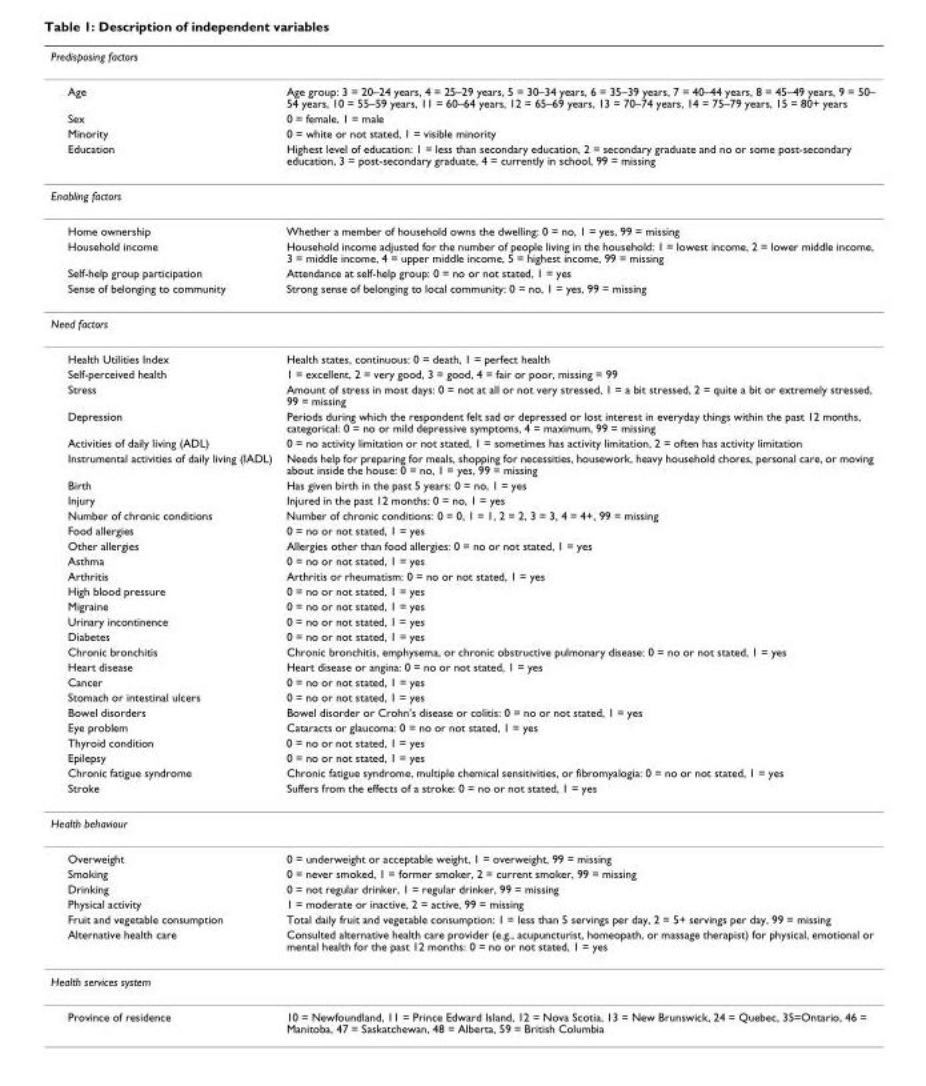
<table><thead><tr><td colspan="2">Predisposing factors</td></tr><tr><td>Age</td><td>Age group: 3 = 20–24 years, 4 = 25–29 years, 5 = 30–34 years, 6 = 35–39 years, 7 = 40–44 years, 8 = 45–49 years, 9 = 50– 54 years, 10 = 55–59 years, 11 = 60–64 years, 12 = 65–69 years, 13 = 70–74 years, 14 = 75–79 years, 15 = 80+ years</td></tr></thead><tbody><tr><td>Sex</td><td>0 = female, 1 = male</td></tr><tr><td>Minority</td><td>0 = white or not stated, 1 = visible minority</td></tr><tr><td>Education</td><td>Highest level of education: 1 = less than secondary education, 2 = secondary graduate and no or some post-secondary education, 3 = post-secondary graduate, 4 = currently in school, 99 = missing</td></tr><tr><td colspan="2">Enabling factors</td></tr><tr><td>Home ownership</td><td>Whether a member of household owns the dwelling: 0 = no, 1 = yes, 99 = missing</td></tr><tr><td>Household income</td><td>Household income adjusted for the number of people living in the household: 1 = lowest income, 2 = lower middle income, 3 = middle income, 4 = upper middle income, 5 = highest income, 99 = missing</td></tr><tr><td>Self-help group participation</td><td>Attendance at self-help group: 0 = no or not stated, 1 = yes</td></tr><tr><td>Sense of belonging to community</td><td>Strong sense of belonging to local community: 0 = no, 1 = yes, 99 = missing</td></tr><tr><td colspan="2">Need factors</td></tr><tr><td>Health Utilities Index</td><td>Health states, continuous: 0 = death, 1 = perfect health</td></tr><tr><td>Self-perceived health</td><td>1 = excellent, 2 = very good, 3 = good, 4 = fair or poor, missing = 99</td></tr><tr><td>Stress</td><td>Amount of stress in most days: 0 = not at all or not very stressed, 1 = a bit stressed, 2 = quite a bit or extremely stressed, 99 = missing</td></tr><tr><td>Depression</td><td>Periods during which the respondent felt sad or depressed or lost interest in everyday things within the past 12 months, categorical: 0 = no or mild depressive symptoms, 4 = maximum, 99 = missing</td></tr><tr><td>Activities of daily living (ADL)</td><td>0 = no activity limitation or not stated, 1 = sometimes has activity limitation, 2 = often has activity limitation</td></tr><tr><td>Instrumental activities of daily living (IADL)</td><td>Needs help for preparing for meals, shopping for necessities, housework, heavy household chores, personal care, or moving about inside the house: 0 = no, 1 = yes, 99 = missing</td></tr><tr><td>Birth</td><td>Has given birth in the past 5 years: 0 = no, 1 = yes</td></tr><tr><td>Injury</td><td>Injured in the past 12 months: 0 = no, 1 = yes</td></tr><tr><td>Number of chronic conditions</td><td>Number of chronic conditions: 0 = 0, 1 = 1, 2 = 2, 3 = 3, 4 = 4+, 99 = missing</td></tr><tr><td>Food allergies</td><td>0 = no or not stated, 1 = yes</td></tr><tr><td>Other allergies</td><td>Allergies other than food allergies: 0 = no or not stated, 1 = yes</td></tr><tr><td>Asthma</td><td>0 = no or not stated, 1 = yes</td></tr><tr><td>Arthritis</td><td>Arthritis or rheumatism: 0 = no or not stated, 1 = yes</td></tr><tr><td>High blood pressure</td><td>0 = no or not stated, 1 = yes</td></tr><tr><td>Migraine</td><td>0 = no or not stated, 1 = yes</td></tr><tr><td>Urinary incontinence</td><td>0 = no or not stated, 1 = yes</td></tr><tr><td>Diabetes</td><td>0 = no or not stated, 1 = yes</td></tr><tr><td>Chronic bronchitis</td><td>Chronic bronchitis, emphysema, or chronic obstructive pulmonary disease: 0 = no or not stated, 1 = yes</td></tr><tr><td>Heart disease</td><td>Heart disease or angina: 0 = no or not stated, 1 = yes</td></tr><tr><td>Cancer</td><td>0 = no or not stated, 1 = yes</td></tr><tr><td>Stomach or intestinal ulcers</td><td>0 = no or not stated, 1 = yes</td></tr><tr><td>Bowel disorders</td><td>Bowel disorder or Crohn&#x27;s disease or colitis: 0 = no or not stated, 1 = yes</td></tr><tr><td>Eye problem</td><td>Cataracts or glaucoma: 0 = no or not stated, 1 = yes</td></tr><tr><td>Thyroid condition</td><td>0 = no or not stated, 1 = yes</td></tr><tr><td>Epilepsy</td><td>0 = no or not stated, 1 = yes</td></tr><tr><td>Chronic fatigue syndrome</td><td>Chronic fatigue syndrome, multiple chemical sensitivities, or fibromyalogia: 0 = no or not stated, 1 = yes</td></tr><tr><td>Stroke</td><td>Suffers from the effects of a stroke: 0 = no or not stated, 1 = yes</td></tr><tr><td colspan="2">Health behaviour</td></tr><tr><td>Overweight</td><td>0 = underweight or acceptable weight, 1 = overweight, 99 = missing</td></tr><tr><td>Smoking</td><td>0 = never smoked, 1 = former smoker, 2 = current smoker, 99 = missing</td></tr><tr><td>Drinking</td><td>0 = not regular drinker, 1 = regular drinker, 99 = missing</td></tr><tr><td>Physical activity</td><td>1 = moderate or inactive, 2 = active, 99 = missing</td></tr><tr><td>Fruit and vegetable consumption</td><td>Total daily fruit and vegetable consumption: 1 = less than 5 servings per day, 2 = 5+ servings per day, 99 = missing</td></tr><tr><td>Alternative health care</td><td>Consulted alternative health care provider (e.g., acupuncturist, homeopath, or massage therapist) for physical, emotional or mental health for the past 12 months: 0 = no or not stated, 1 = yes</td></tr><tr><td colspan="2">Health services system</td></tr><tr><td>Province of residence</td><td>10 = Newfoundland, 11 = Prince Edward Island, 12 = Nova Scotia, 13 = New Brunswick, 24 = Quebec, 35=Ontario, 46 = Manitoba, 47 = Saskatchewan, 48 = Alberta, 59 = British Columbia</td></tr></tbody></table>